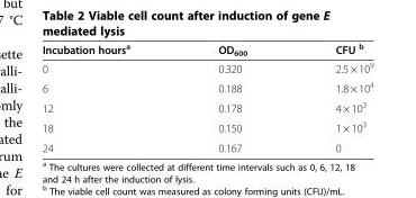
<table><thead><tr><td>Incubation hours<sup>a</sup></td><td>OD<sub>600</sub></td><td>CFU <sup>b</sup></td></tr></thead><tbody><tr><td>0</td><td>0.320</td><td>2.5 × 10<sup>9</sup></td></tr><tr><td>6</td><td>0.188</td><td>1.8 × 10<sup>4</sup></td></tr><tr><td>12</td><td>0.178</td><td>4 × 10<sup>3</sup></td></tr><tr><td>18</td><td>0.150</td><td>1 × 10<sup>3</sup></td></tr><tr><td>24</td><td>0.167</td><td>0</td></tr></tbody></table>